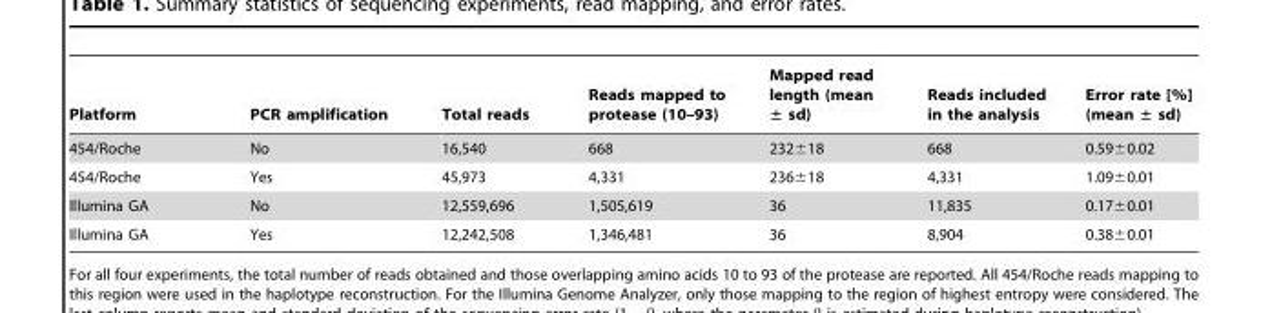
<table><thead><tr><td>Platform</td><td>PCR amplification</td><td>Total reads</td><td>Reads mapped to protease (10–93)</td><td>Mapped read length (mean ± sd)</td><td>Reads included in the analysis</td><td>Error rate [%] (mean ± sd)</td></tr></thead><tbody><tr><td>454/Roche</td><td>No</td><td>16,540</td><td>668</td><td>232±18</td><td>668</td><td>0.59±0.02</td></tr><tr><td>454/Roche</td><td>Yes</td><td>45,973</td><td>4,331</td><td>236±18</td><td>4,331</td><td>1.09±0.01</td></tr><tr><td>Illumina GA</td><td>No</td><td>12,559,696</td><td>1,505,619</td><td>36</td><td>11,835</td><td>0.17±0.01</td></tr><tr><td>Illumina GA</td><td>Yes</td><td>12,242,508</td><td>1,346,481</td><td>36</td><td>8,904</td><td>0.38±0.01</td></tr></tbody></table>